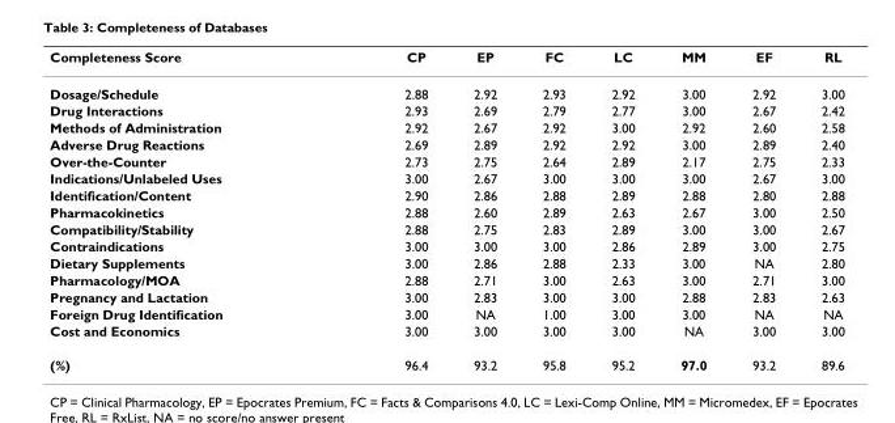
<table><thead><tr><td>Completeness Score</td><td>CP</td><td>EP</td><td>FC</td><td>LC</td><td>MM</td><td>EF</td><td>RL</td></tr></thead><tbody><tr><td>Dosage/Schedule</td><td>2.88</td><td>2.92</td><td>2.93</td><td>2.92</td><td>3.00</td><td>2.92</td><td>3.00</td></tr><tr><td>Drug Interactions</td><td>2.93</td><td>2.69</td><td>2.79</td><td>2.77</td><td>3.00</td><td>2.67</td><td>2.42</td></tr><tr><td>Methods of Administration</td><td>2.92</td><td>2.67</td><td>2.92</td><td>3.00</td><td>2.92</td><td>2.60</td><td>2.58</td></tr><tr><td>Adverse Drug Reactions</td><td>2.69</td><td>2.89</td><td>2.92</td><td>2.92</td><td>3.00</td><td>2.89</td><td>2.40</td></tr><tr><td>Over-the-Counter</td><td>2.73</td><td>2.75</td><td>2.64</td><td>2.89</td><td>2.17</td><td>2.75</td><td>2.33</td></tr><tr><td>Indications/Unlabeled Uses</td><td>3.00</td><td>2.67</td><td>3.00</td><td>3.00</td><td>3.00</td><td>2.67</td><td>3.00</td></tr><tr><td>Identification/Content</td><td>2.90</td><td>2.86</td><td>2.88</td><td>2.89</td><td>2.88</td><td>2.80</td><td>2.88</td></tr><tr><td>Pharmacokinetics</td><td>2.88</td><td>2.60</td><td>2.89</td><td>2.63</td><td>2.67</td><td>3.00</td><td>2.50</td></tr><tr><td>Compatibility/Stability</td><td>2.88</td><td>2.75</td><td>2.83</td><td>2.89</td><td>3.00</td><td>3.00</td><td>2.67</td></tr><tr><td>Contraindications</td><td>3.00</td><td>3.00</td><td>3.00</td><td>2.86</td><td>2.89</td><td>3.00</td><td>2.75</td></tr><tr><td>Dietary Supplements</td><td>3.00</td><td>2.86</td><td>2.88</td><td>2.33</td><td>3.00</td><td>NA</td><td>2.80</td></tr><tr><td>Pharmacology/MOA</td><td>2.88</td><td>2.71</td><td>3.00</td><td>2.63</td><td>3.00</td><td>2.71</td><td>3.00</td></tr><tr><td>Pregnancy and Lactation</td><td>3.00</td><td>2.83</td><td>3.00</td><td>3.00</td><td>2.88</td><td>2.83</td><td>2.63</td></tr><tr><td>Foreign Drug Identification</td><td>3.00</td><td>NA</td><td>1.00</td><td>3.00</td><td>3.00</td><td>NA</td><td>NA</td></tr><tr><td>Cost and Economics</td><td>3.00</td><td>3.00</td><td>3.00</td><td>3.00</td><td>NA</td><td>3.00</td><td>3.00</td></tr><tr><td>(%)</td><td>96.4</td><td>93.2</td><td>95.8</td><td>95.2</td><td>97.0</td><td>93.2</td><td>89.6</td></tr></tbody></table>